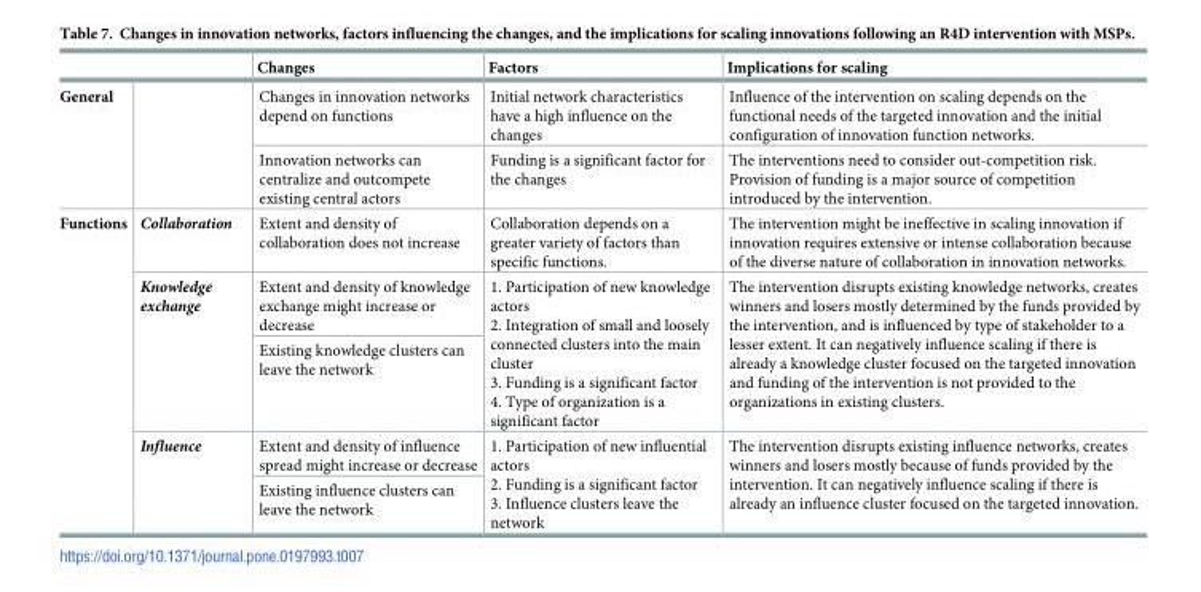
<table><thead><tr><td></td><td></td><td>Changes</td><td>Factors</td><td>Implications for scaling</td></tr></thead><tbody><tr><td rowspan="2">General</td><td rowspan="2"></td><td>Changes in innovation networks depend on functions</td><td>Initial network characteristics have a high influence on the changes</td><td>Influence of the intervention on scaling depends on the functional needs of the targeted innovation and the initial configuration of innovation function networks.</td></tr><tr><td>Innovation networks can centralize and outcompete existing central actors</td><td>Funding is a significant factor for the changes</td><td>The interventions need to consider out-competition risk. Provision of funding is a major source of competition introduced by the intervention.</td></tr><tr><td rowspan="5">Functions</td><td>Collaboration</td><td>Extent and density of collaboration does not increase</td><td>Collaboration depends on a greater variety of factors than specific functions.</td><td>The intervention might be ineffective in scaling innovation if innovation requires extensive or intense collaboration because of the diverse nature of collaboration in innovation networks.</td></tr><tr><td rowspan="2">Knowledge exchange</td><td>Extent and density of knowledge exchange might increase or decrease</td><td rowspan="2">1. Participation of new knowledge actors 2. Integration of small and loosely connected clusters into the main cluster 3. Funding is a significant factor 4. Type of organization is a significant factor</td><td rowspan="2">The intervention disrupts existing knowledge networks, creates winners and losers mostly determined by the funds provided by the intervention, and is influenced by type of stakeholder to a lesser extent. It can negatively influence scaling if there is already a knowledge cluster focused on the targeted innovation and funding of the intervention is not provided to the organizations in existing clusters.</td></tr><tr><td>Existing knowledge clusters can leave the network</td></tr><tr><td rowspan="2">Influence</td><td>Extent and density of influence spread might increase or decrease</td><td rowspan="2">1. Participation of new influential actors 2. Funding is a significant factor 3. Influence clusters leave the network</td><td rowspan="2">The intervention disrupts existing influence networks, creates winners and losers mostly because of funds provided by the intervention. It can negatively influence scaling if there is already an influence cluster focused on the targeted innovation.</td></tr><tr><td>Existing influence clusters can leave the network</td></tr></tbody></table>